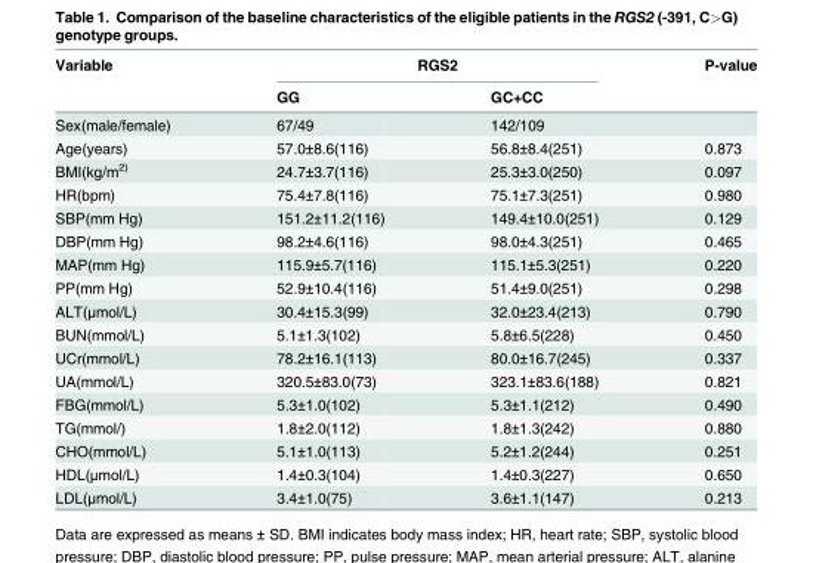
<table><thead><tr><td rowspan="2">Variable</td><td colspan="2">RGS2</td><td rowspan="2">P-value</td></tr><tr><td>GG</td><td>GC+CC</td></tr></thead><tbody><tr><td>Sex(male/female)</td><td>67/49</td><td>142/109</td><td></td></tr><tr><td>Age(years)</td><td>57.0±8.6(116)</td><td>56.8±8.4(251)</td><td>0.873</td></tr><tr><td>BMI(kg/m<sup>2)</sup></td><td>24.7±3.7(116)</td><td>25.3±3.0(250)</td><td>0.097</td></tr><tr><td>HR(bpm)</td><td>75.4±7.8(116)</td><td>75.1±7.3(251)</td><td>0.980</td></tr><tr><td>SBP(mm Hg)</td><td>151.2±11.2(116)</td><td>149.4±10.0(251)</td><td>0.129</td></tr><tr><td>DBP(mm Hg)</td><td>98.2±4.6(116)</td><td>98.0±4.3(251)</td><td>0.465</td></tr><tr><td>MAP(mm Hg)</td><td>115.9±5.7(116)</td><td>115.1±5.3(251)</td><td>0.220</td></tr><tr><td>PP(mm Hg)</td><td>52.9±10.4(116)</td><td>51.4±9.0(251)</td><td>0.298</td></tr><tr><td>ALT(μmol/L)</td><td>30.4±15.3(99)</td><td>32.0±23.4(213)</td><td>0.790</td></tr><tr><td>BUN(mmol/L)</td><td>5.1±1.3(102)</td><td>5.8±6.5(228)</td><td>0.450</td></tr><tr><td>UCr(mmol/L)</td><td>78.2±16.1(113)</td><td>80.0±16.7(245)</td><td>0.337</td></tr><tr><td>UA(mmol/L)</td><td>320.5±83.0(73)</td><td>323.1±83.6(188)</td><td>0.821</td></tr><tr><td>FBG(mmol/L)</td><td>5.3±1.0(102)</td><td>5.3±1.1(212)</td><td>0.490</td></tr><tr><td>TG(mmol/)</td><td>1.8±2.0(112)</td><td>1.8±1.3(242)</td><td>0.880</td></tr><tr><td>CHO(mmol/L)</td><td>5.1±1.0(113)</td><td>5.2±1.2(244)</td><td>0.251</td></tr><tr><td>HDL(μmol/L)</td><td>1.4±0.3(104)</td><td>1.4±0.3(227)</td><td>0.650</td></tr><tr><td>LDL(μmol/L)</td><td>3.4±1.0(75)</td><td>3.6±1.1(147)</td><td>0.213</td></tr></tbody></table>